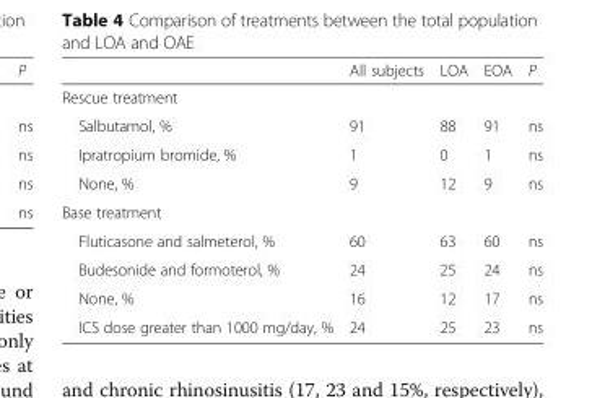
<table><thead><tr><td></td><td>All subjects</td><td>LOA</td><td>EOA</td><td>P</td></tr></thead><tbody><tr><td colspan="5">Rescue treatment</td></tr><tr><td>Salbutamol, %</td><td>91</td><td>88</td><td>91</td><td>ns</td></tr><tr><td>Ipratropium bromide, %</td><td>1</td><td>0</td><td>1</td><td>ns</td></tr><tr><td>None, %</td><td>9</td><td>12</td><td>9</td><td>ns</td></tr><tr><td colspan="5">Base treatment</td></tr><tr><td>Fluticasone and salmeterol, %</td><td>60</td><td>63</td><td>60</td><td>ns</td></tr><tr><td>Budesonide and formoterol, %</td><td>24</td><td>25</td><td>24</td><td>ns</td></tr><tr><td>None, %</td><td>16</td><td>12</td><td>17</td><td>ns</td></tr><tr><td>ICS dose greater than 1000 mg/day, %</td><td>24</td><td>25</td><td>23</td><td>ns</td></tr></tbody></table>